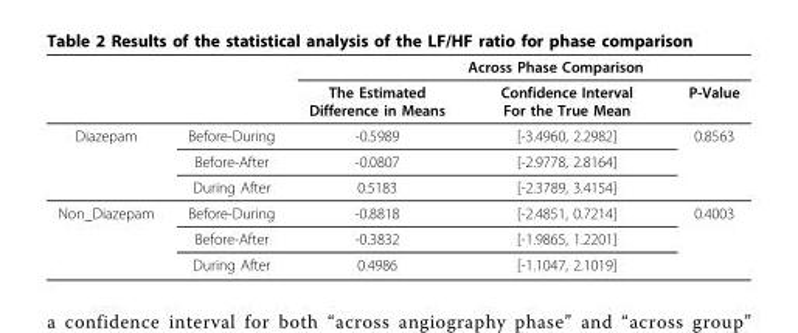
<table><thead><tr><td rowspan="2"></td><td rowspan="2"></td><td rowspan="2">The Estimated Difference in Means</td><td rowspan="2">Across Phase Comparison Confidence Interval For the True Mean</td><td rowspan="2">P-Value</td></tr><tr></tr></thead><tbody><tr><td rowspan="3">Diazepam</td><td>Before-During</td><td>-0.5989</td><td>[-3.4960, 2.2982]</td><td>0.8563</td></tr><tr><td>Before-After</td><td>-0.0807</td><td>[-2.9778, 2.8164]</td><td></td></tr><tr><td>During After</td><td>0.5183</td><td>[-2.3789, 3.4154]</td><td></td></tr><tr><td rowspan="3">Non_Diazepam</td><td>Before-During</td><td>-0.8818</td><td>[-2.4851, 0.7214]</td><td>0.4003</td></tr><tr><td>Before-After</td><td>-0.3832</td><td>[-1.9865, 1.2201]</td><td></td></tr><tr><td>During After</td><td>0.4986</td><td>[-1.1047, 2.1019]</td><td></td></tr></tbody></table>